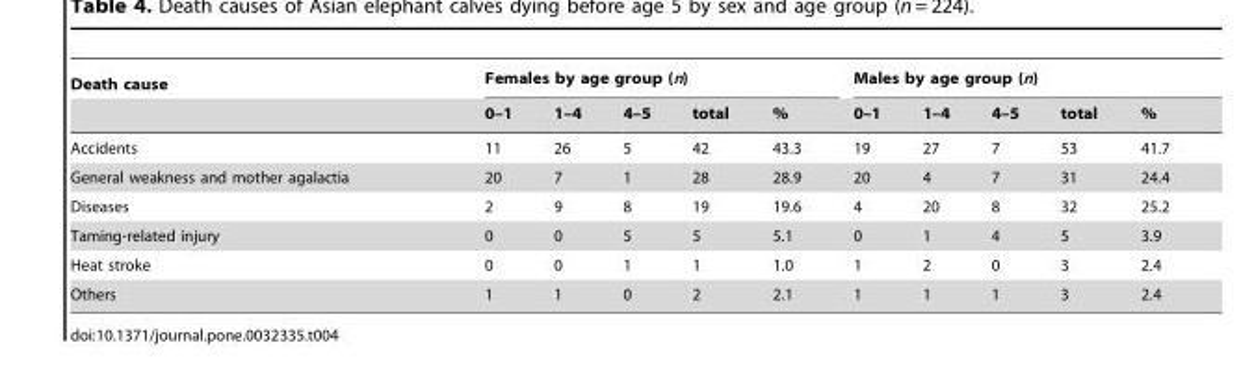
<table><thead><tr><td rowspan="2">Death cause</td><td colspan="5">Females by age group (n)</td><td colspan="5">Males by age group (n)</td></tr><tr><td>0–1</td><td>1–4</td><td>4–5</td><td>total</td><td>%</td><td>0–1</td><td>1–4</td><td>4–5</td><td>total</td><td>%</td></tr></thead><tbody><tr><td>Accidents</td><td>11</td><td>26</td><td>5</td><td>42</td><td>43.3</td><td>19</td><td>27</td><td>7</td><td>53</td><td>41.7</td></tr><tr><td>General weakness and mother agalactia</td><td>20</td><td>7</td><td>1</td><td>28</td><td>28.9</td><td>20</td><td>4</td><td>7</td><td>31</td><td>24.4</td></tr><tr><td>Diseases</td><td>2</td><td>9</td><td>8</td><td>19</td><td>19.6</td><td>4</td><td>20</td><td>8</td><td>32</td><td>25.2</td></tr><tr><td>Taming-related injury</td><td>0</td><td>0</td><td>5</td><td>5</td><td>5.1</td><td>0</td><td>1</td><td>4</td><td>5</td><td>3.9</td></tr><tr><td>Heat stroke</td><td>0</td><td>0</td><td>1</td><td>1</td><td>1.0</td><td>1</td><td>2</td><td>0</td><td>3</td><td>2.4</td></tr><tr><td>Others</td><td>1</td><td>1</td><td>0</td><td>2</td><td>2.1</td><td>1</td><td>1</td><td>1</td><td>3</td><td>2.4</td></tr></tbody></table>